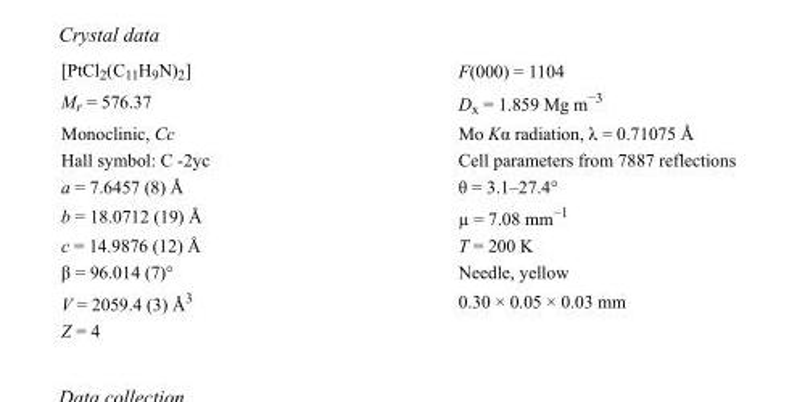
<table><tbody><tr><td>[PtCl<sub>2</sub>(C<sub>11</sub>H<sub>9</sub>N)<sub>2</sub>]</td><td>F(000) = 1104</td></tr><tr><td>M<sub>r</sub> = 576.37</td><td>D<sub>x</sub> = 1.859 Mg m<sup>−3</sup></td></tr><tr><td>Monoclinic, Cc</td><td>Mo Kα radiation, λ = 0.71075 Å</td></tr><tr><td>Hall symbol: C -2yc</td><td>Cell parameters from 7887 reflections</td></tr><tr><td>a = 7.6457 (8) Å</td><td>θ = 3.1–27.4°</td></tr><tr><td>b = 18.0712 (19) Å</td><td>µ = 7.08 mm<sup>−1</sup></td></tr><tr><td>c = 14.9876 (12) Å</td><td>T = 200 K</td></tr><tr><td>β = 96.014 (7)°</td><td>Needle, yellow</td></tr><tr><td>V = 2059.4 (3) Å<sup>3</sup></td><td>0.30 × 0.05 × 0.03 mm</td></tr><tr><td>Z = 4</td><td></td></tr></tbody></table>